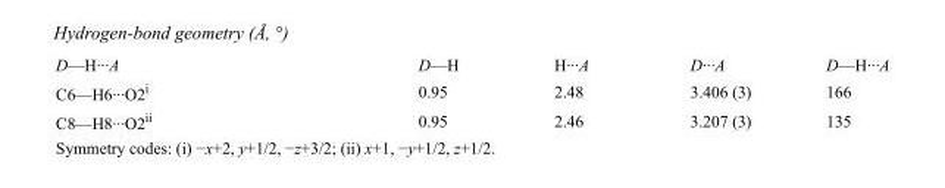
<table><tbody><tr><td>D—H···A</td><td>D—H</td><td>H···A</td><td>D···A</td><td>D—H···A</td></tr><tr><td>C6—H6···O2<sup>i</sup></td><td>0.95</td><td>2.48</td><td>3.406 (3)</td><td>166</td></tr><tr><td>C8—H8···O2<sup>ii</sup></td><td>0.95</td><td>2.46</td><td>3.207 (3)</td><td>135</td></tr></tbody></table>